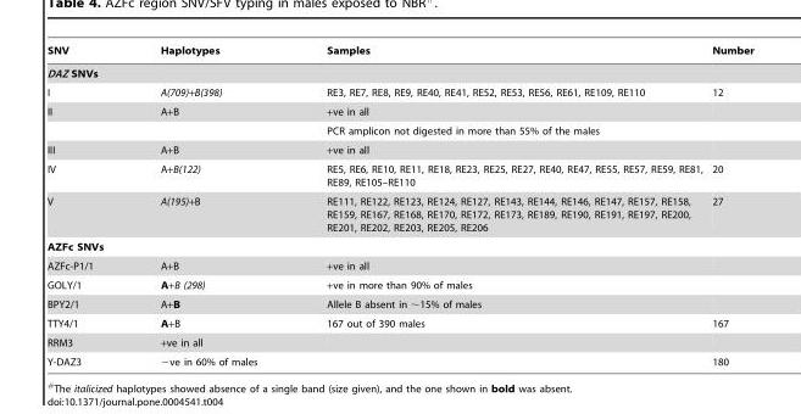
<table><thead><tr><td>SNV</td><td>Haplotypes</td><td>Samples</td><td>Number</td></tr></thead><tbody><tr><td colspan="4">DAZ SNVs</td></tr><tr><td>I</td><td>A(709)+B(398)</td><td>RE3, RE7, RE8, RE9, RE40, RE41, RE52, RE53, RE56, RE61, RE109, RE110</td><td>12</td></tr><tr><td rowspan="2">II</td><td>A+B</td><td>+ve in all</td><td></td></tr><tr><td></td><td>PCR amplicon not digested in more than 55% of the males</td><td></td></tr><tr><td>III</td><td>A+B</td><td>+ve in all</td><td></td></tr><tr><td>IV</td><td>A+B(122)</td><td>RE5, RE6, RE10, RE11, RE18, RE23, RE25, RE27, RE40, RE47, RE55, RE57, RE59, RE81, RE89, RE105–RE110</td><td>20</td></tr><tr><td>V</td><td>A(195)+B</td><td>RE111, RE122, RE123, RE124, RE127, RE143, RE144, RE146, RE147, RE157, RE158, RE159, RE167, RE168, RE170, RE172, RE173, RE189, RE190, RE191, RE197, RE200, RE201, RE202, RE203, RE205, RE206</td><td>27</td></tr><tr><td colspan="4">AZFc SNVs</td></tr><tr><td>AZFc-P1/1</td><td>A+B</td><td>+ve in all</td><td></td></tr><tr><td>GOLY/1</td><td>A+B (298)</td><td>+ve in more than 90% of males</td><td></td></tr><tr><td>BPY2/1</td><td>A+B</td><td>Allele B absent in ∼15% of males</td><td></td></tr><tr><td>TTY4/1</td><td>A+B</td><td>167 out of 390 males</td><td>167</td></tr><tr><td>RRM3</td><td>+ve in all</td><td></td><td></td></tr><tr><td>Y-DAZ3</td><td>−ve in 60% of males</td><td></td><td>180</td></tr></tbody></table>